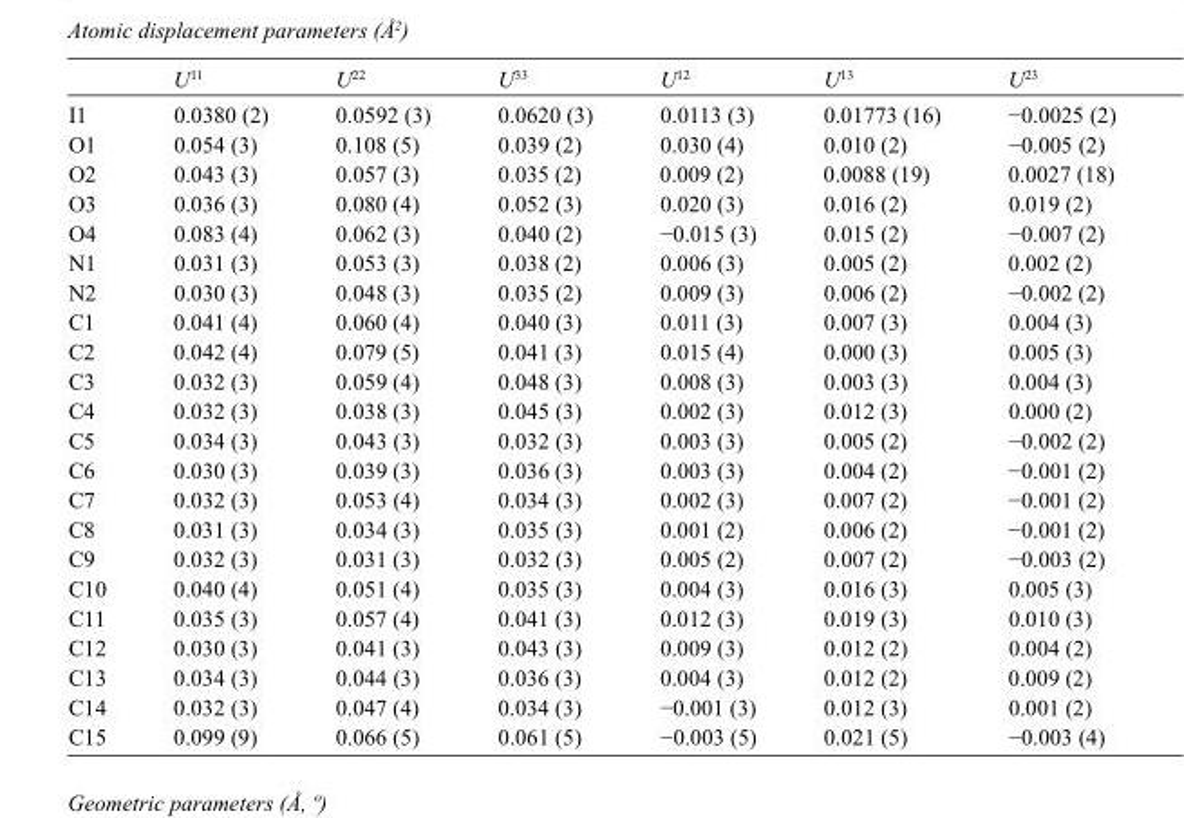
<table><thead><tr><td></td><td>U<sup>11</sup></td><td>U<sup>22</sup></td><td>U<sup>33</sup></td><td>U<sup>12</sup></td><td>U<sup>13</sup></td><td>U<sup>23</sup></td></tr></thead><tbody><tr><td>I1</td><td>0.0380 (2)</td><td>0.0592 (3)</td><td>0.0620 (3)</td><td>0.0113 (3)</td><td>0.01773 (16)</td><td>−0.0025 (2)</td></tr><tr><td>O1</td><td>0.054 (3)</td><td>0.108 (5)</td><td>0.039 (2)</td><td>0.030 (4)</td><td>0.010 (2)</td><td>−0.005 (2)</td></tr><tr><td>O2</td><td>0.043 (3)</td><td>0.057 (3)</td><td>0.035 (2)</td><td>0.009 (2)</td><td>0.0088 (19)</td><td>0.0027 (18)</td></tr><tr><td>O3</td><td>0.036 (3)</td><td>0.080 (4)</td><td>0.052 (3)</td><td>0.020 (3)</td><td>0.016 (2)</td><td>0.019 (2)</td></tr><tr><td>O4</td><td>0.083 (4)</td><td>0.062 (3)</td><td>0.040 (2)</td><td>−0.015 (3)</td><td>0.015 (2)</td><td>−0.007 (2)</td></tr><tr><td>N1</td><td>0.031 (3)</td><td>0.053 (3)</td><td>0.038 (2)</td><td>0.006 (3)</td><td>0.005 (2)</td><td>0.002 (2)</td></tr><tr><td>N2</td><td>0.030 (3)</td><td>0.048 (3)</td><td>0.035 (2)</td><td>0.009 (3)</td><td>0.006 (2)</td><td>−0.002 (2)</td></tr><tr><td>C1</td><td>0.041 (4)</td><td>0.060 (4)</td><td>0.040 (3)</td><td>0.011 (3)</td><td>0.007 (3)</td><td>0.004 (3)</td></tr><tr><td>C2</td><td>0.042 (4)</td><td>0.079 (5)</td><td>0.041 (3)</td><td>0.015 (4)</td><td>0.000 (3)</td><td>0.005 (3)</td></tr><tr><td>C3</td><td>0.032 (3)</td><td>0.059 (4)</td><td>0.048 (3)</td><td>0.008 (3)</td><td>0.003 (3)</td><td>0.004 (3)</td></tr><tr><td>C4</td><td>0.032 (3)</td><td>0.038 (3)</td><td>0.045 (3)</td><td>0.002 (3)</td><td>0.012 (3)</td><td>0.000 (2)</td></tr><tr><td>C5</td><td>0.034 (3)</td><td>0.043 (3)</td><td>0.032 (3)</td><td>0.003 (3)</td><td>0.005 (2)</td><td>−0.002 (2)</td></tr><tr><td>C6</td><td>0.030 (3)</td><td>0.039 (3)</td><td>0.036 (3)</td><td>0.003 (3)</td><td>0.004 (2)</td><td>−0.001 (2)</td></tr><tr><td>C7</td><td>0.032 (3)</td><td>0.053 (4)</td><td>0.034 (3)</td><td>0.002 (3)</td><td>0.007 (2)</td><td>−0.001 (2)</td></tr><tr><td>C8</td><td>0.031 (3)</td><td>0.034 (3)</td><td>0.035 (3)</td><td>0.001 (2)</td><td>0.006 (2)</td><td>−0.001 (2)</td></tr><tr><td>C9</td><td>0.032 (3)</td><td>0.031 (3)</td><td>0.032 (3)</td><td>0.005 (2)</td><td>0.007 (2)</td><td>−0.003 (2)</td></tr><tr><td>C10</td><td>0.040 (4)</td><td>0.051 (4)</td><td>0.035 (3)</td><td>0.004 (3)</td><td>0.016 (3)</td><td>0.005 (3)</td></tr><tr><td>C11</td><td>0.035 (3)</td><td>0.057 (4)</td><td>0.041 (3)</td><td>0.012 (3)</td><td>0.019 (3)</td><td>0.010 (3)</td></tr><tr><td>C12</td><td>0.030 (3)</td><td>0.041 (3)</td><td>0.043 (3)</td><td>0.009 (3)</td><td>0.012 (2)</td><td>0.004 (2)</td></tr><tr><td>C13</td><td>0.034 (3)</td><td>0.044 (3)</td><td>0.036 (3)</td><td>0.004 (3)</td><td>0.012 (2)</td><td>0.009 (2)</td></tr><tr><td>C14</td><td>0.032 (3)</td><td>0.047 (4)</td><td>0.034 (3)</td><td>−0.001 (3)</td><td>0.012 (3)</td><td>0.001 (2)</td></tr><tr><td>C15</td><td>0.099 (9)</td><td>0.066 (5)</td><td>0.061 (5)</td><td>−0.003 (5)</td><td>0.021 (5)</td><td>−0.003 (4)</td></tr></tbody></table>